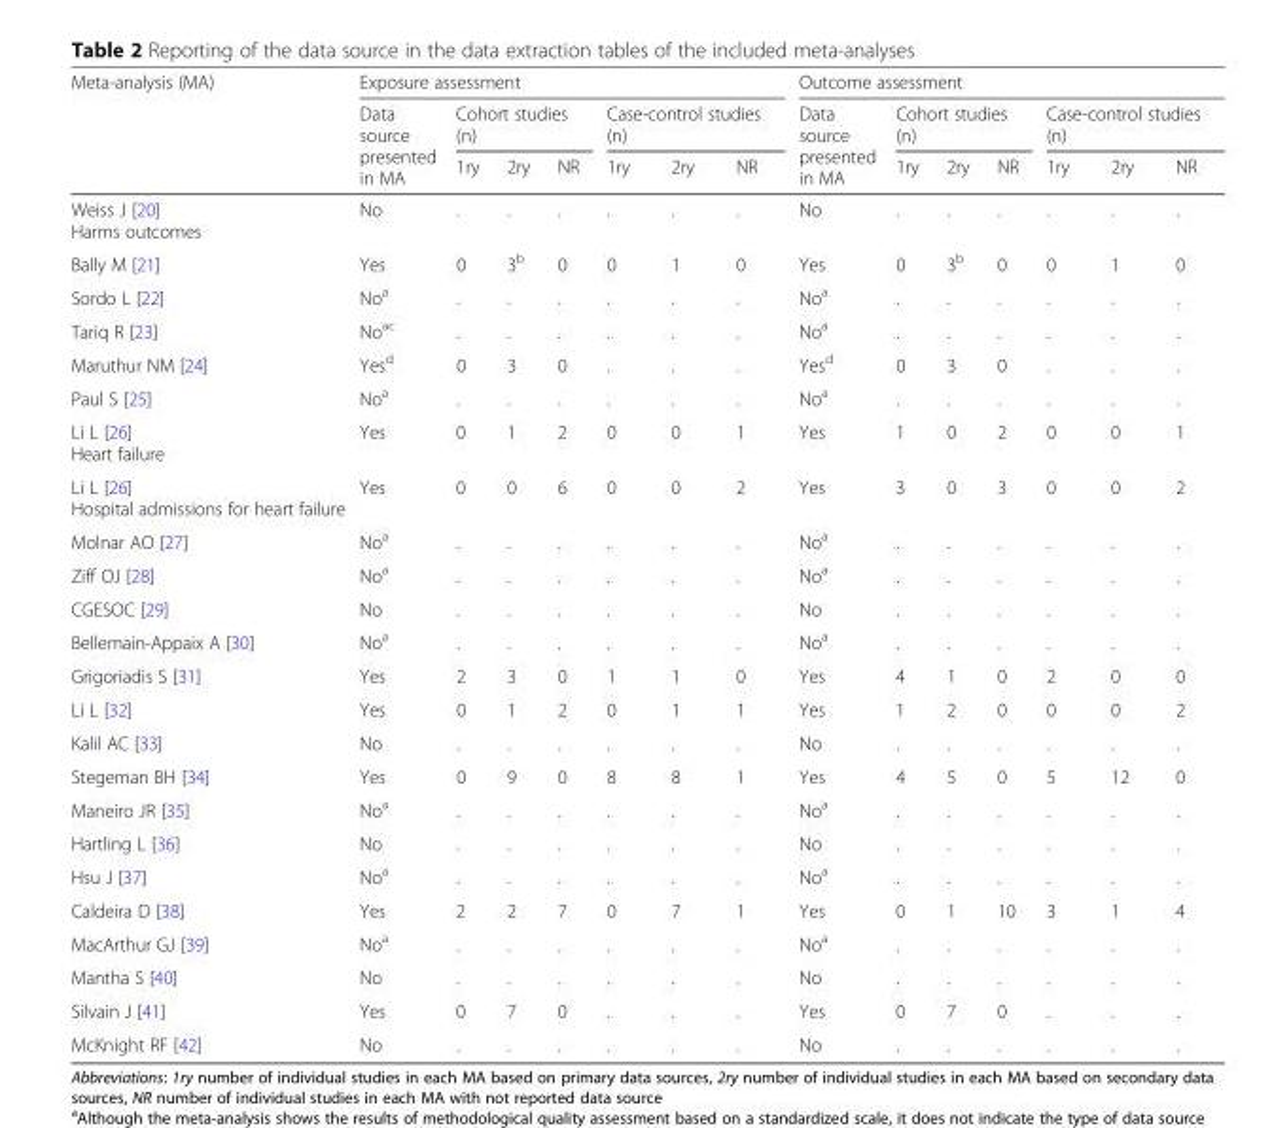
<table><thead><tr><td rowspan="3">Meta-analysis (MA)</td><td colspan="7">Exposure assessment</td><td colspan="7">Outcome assessment</td></tr><tr><td rowspan="2">Data source presented in MA</td><td colspan="3">Cohort studies (n)</td><td colspan="3">Case-control studies (n)</td><td rowspan="2">Data source presented in MA</td><td colspan="3">Cohort studies (n)</td><td colspan="3">Case-control studies (n)</td></tr><tr><td>1ry</td><td>2ry</td><td>NR</td><td>1ry</td><td>2ry</td><td>NR</td><td>1ry</td><td>2ry</td><td>NR</td><td>1ry</td><td>2ry</td><td>NR</td></tr></thead><tbody><tr><td>Weiss J [20] Harms outcomes</td><td>No</td><td>.</td><td>.</td><td>.</td><td>.</td><td>.</td><td>.</td><td>No</td><td>.</td><td>.</td><td>.</td><td>.</td><td>.</td><td>.</td></tr><tr><td>Bally M [21]</td><td>Yes</td><td>0</td><td>3<sup>b</sup></td><td>0</td><td>0</td><td>1</td><td>0</td><td>Yes</td><td>0</td><td>3<sup>b</sup></td><td>0</td><td>0</td><td>1</td><td>0</td></tr><tr><td>Sordo L [22]</td><td>No<sup>a</sup></td><td>.</td><td>.</td><td>.</td><td>.</td><td>.</td><td>.</td><td>No<sup>a</sup></td><td>.</td><td>.</td><td>.</td><td>.</td><td>.</td><td>.</td></tr><tr><td>Tariq R [23]</td><td>No<sup>ac</sup></td><td>.</td><td>.</td><td>.</td><td>.</td><td>.</td><td>.</td><td>No<sup>a</sup></td><td>.</td><td>.</td><td>.</td><td>.</td><td>.</td><td>.</td></tr><tr><td>Maruthur NM [24]</td><td>Yes<sup>d</sup></td><td>0</td><td>3</td><td>0</td><td>.</td><td>.</td><td>.</td><td>Yes<sup>d</sup></td><td>0</td><td>3</td><td>0</td><td>.</td><td>.</td><td>.</td></tr><tr><td>Paul S [25]</td><td>No<sup>a</sup></td><td>.</td><td>.</td><td>.</td><td>.</td><td>.</td><td>.</td><td>No<sup>a</sup></td><td>.</td><td>.</td><td>.</td><td>.</td><td>.</td><td>.</td></tr><tr><td>Li L [26] Heart failure</td><td>Yes</td><td>0</td><td>1</td><td>2</td><td>0</td><td>0</td><td>1</td><td>Yes</td><td>1</td><td>0</td><td>2</td><td>0</td><td>0</td><td>1</td></tr><tr><td>Li L [26] Hospital admissions for heart failure</td><td>Yes</td><td>0</td><td>0</td><td>6</td><td>0</td><td>0</td><td>2</td><td>Yes</td><td>3</td><td>0</td><td>3</td><td>0</td><td>0</td><td>2</td></tr><tr><td>Molnar AO [27]</td><td>No<sup>a</sup></td><td>.</td><td>.</td><td>.</td><td>.</td><td>.</td><td>.</td><td>No<sup>a</sup></td><td>.</td><td>.</td><td>.</td><td>.</td><td>.</td><td>.</td></tr><tr><td>Ziff OJ [28]</td><td>No<sup>a</sup></td><td>.</td><td>.</td><td>.</td><td>.</td><td>.</td><td>.</td><td>No<sup>a</sup></td><td>.</td><td>.</td><td>.</td><td>.</td><td>.</td><td>.</td></tr><tr><td>CGESOC [29]</td><td>No</td><td>.</td><td>.</td><td>.</td><td>.</td><td>.</td><td>.</td><td>No</td><td>.</td><td>.</td><td>.</td><td>.</td><td>.</td><td>.</td></tr><tr><td>Bellemain-Appaix A [30]</td><td>No<sup>a</sup></td><td>.</td><td>.</td><td>.</td><td>.</td><td>.</td><td>.</td><td>No<sup>a</sup></td><td>.</td><td>.</td><td>.</td><td>.</td><td>.</td><td>.</td></tr><tr><td>Grigoriadis S [31]</td><td>Yes</td><td>2</td><td>3</td><td>0</td><td>1</td><td>1</td><td>0</td><td>Yes</td><td>4</td><td>1</td><td>0</td><td>2</td><td>0</td><td>0</td></tr><tr><td>Li L [32]</td><td>Yes</td><td>0</td><td>1</td><td>2</td><td>0</td><td>1</td><td>1</td><td>Yes</td><td>1</td><td>2</td><td>0</td><td>0</td><td>0</td><td>2</td></tr><tr><td>Kalil AC [33]</td><td>No</td><td>.</td><td>.</td><td>.</td><td>.</td><td>.</td><td>.</td><td>No</td><td>.</td><td>.</td><td>.</td><td>.</td><td>.</td><td>.</td></tr><tr><td>Stegeman BH [34]</td><td>Yes</td><td>0</td><td>9</td><td>0</td><td>8</td><td>8</td><td>1</td><td>Yes</td><td>4</td><td>5</td><td>0</td><td>5</td><td>12</td><td>0</td></tr><tr><td>Maneiro JR [35]</td><td>No<sup>a</sup></td><td>.</td><td>.</td><td>.</td><td>.</td><td>.</td><td>.</td><td>No<sup>a</sup></td><td>.</td><td>.</td><td>.</td><td>.</td><td>.</td><td>.</td></tr><tr><td>Hartling L [36]</td><td>No</td><td>.</td><td>.</td><td>.</td><td>.</td><td>.</td><td>.</td><td>No</td><td>.</td><td>.</td><td>.</td><td>.</td><td>.</td><td>.</td></tr><tr><td>Hsu J [37]</td><td>No<sup>a</sup></td><td>.</td><td>.</td><td>.</td><td>.</td><td>.</td><td>.</td><td>No<sup>a</sup></td><td>.</td><td>.</td><td>.</td><td>.</td><td>.</td><td>.</td></tr><tr><td>Caldeira D [38]</td><td>Yes</td><td>2</td><td>2</td><td>7</td><td>0</td><td>7</td><td>1</td><td>Yes</td><td>0</td><td>1</td><td>10</td><td>3</td><td>1</td><td>4</td></tr><tr><td>MacArthur GJ [39]</td><td>No<sup>a</sup></td><td>.</td><td>.</td><td>.</td><td>.</td><td>.</td><td>.</td><td>No<sup>a</sup></td><td>.</td><td>.</td><td>.</td><td>.</td><td>.</td><td>.</td></tr><tr><td>Mantha S [40]</td><td>No</td><td>.</td><td>.</td><td>.</td><td>.</td><td>.</td><td>.</td><td>No</td><td>.</td><td>.</td><td>.</td><td>.</td><td>.</td><td>.</td></tr><tr><td>Silvain J [41]</td><td>Yes</td><td>0</td><td>7</td><td>0</td><td>.</td><td>.</td><td>.</td><td>Yes</td><td>0</td><td>7</td><td>0</td><td>.</td><td>.</td><td>.</td></tr><tr><td>McKnight RF [42]</td><td>No</td><td>.</td><td>.</td><td>.</td><td>.</td><td>.</td><td>.</td><td>No</td><td>.</td><td>.</td><td>.</td><td>.</td><td>.</td><td>.</td></tr></tbody></table>